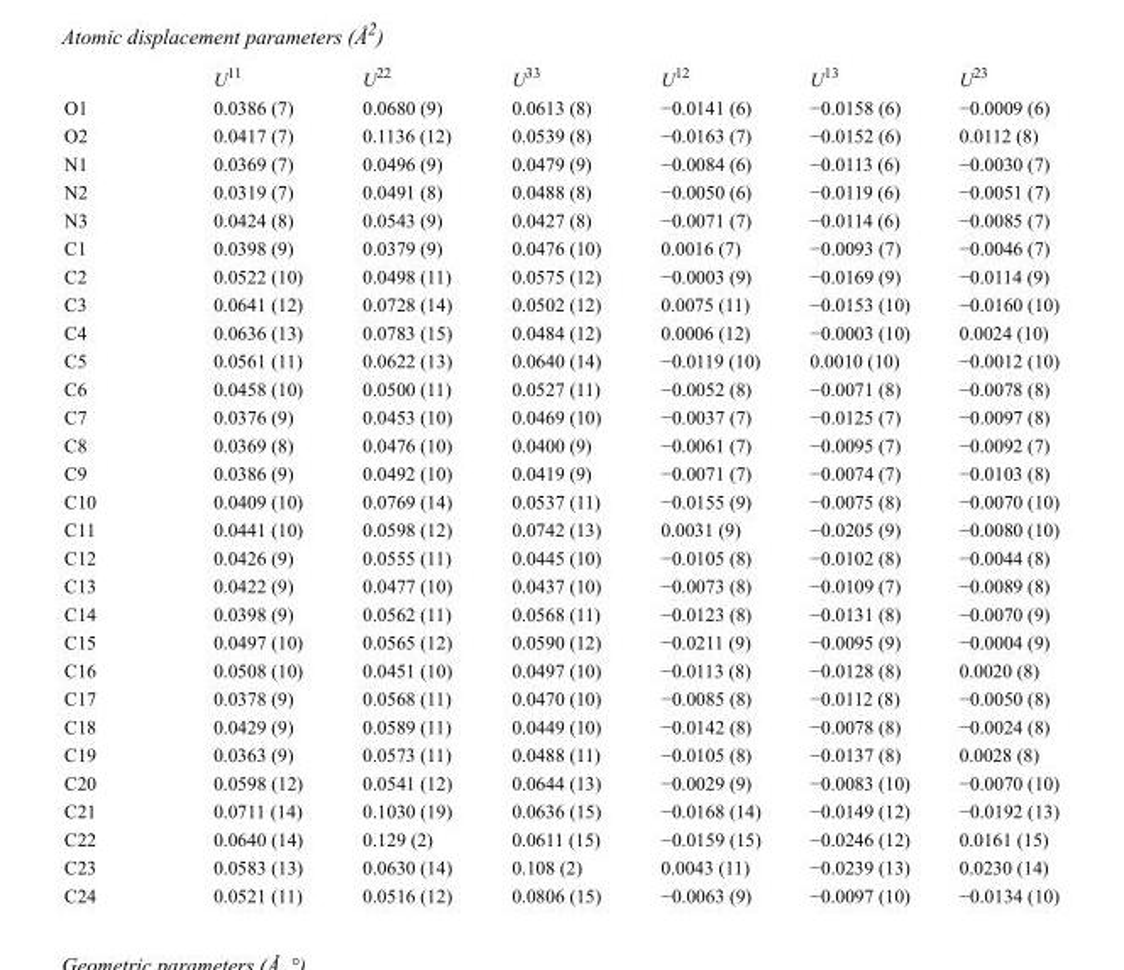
<table><thead><tr><td></td><td>U<sup>11</sup></td><td>U<sup>22</sup></td><td>U<sup>33</sup></td><td>U<sup>12</sup></td><td>U<sup>13</sup></td><td>U<sup>23</sup></td></tr></thead><tbody><tr><td>O1</td><td>0.0386 (7)</td><td>0.0680 (9)</td><td>0.0613 (8)</td><td>−0.0141 (6)</td><td>−0.0158 (6)</td><td>−0.0009 (6)</td></tr><tr><td>O2</td><td>0.0417 (7)</td><td>0.1136 (12)</td><td>0.0539 (8)</td><td>−0.0163 (7)</td><td>−0.0152 (6)</td><td>0.0112 (8)</td></tr><tr><td>N1</td><td>0.0369 (7)</td><td>0.0496 (9)</td><td>0.0479 (9)</td><td>−0.0084 (6)</td><td>−0.0113 (6)</td><td>−0.0030 (7)</td></tr><tr><td>N2</td><td>0.0319 (7)</td><td>0.0491 (8)</td><td>0.0488 (8)</td><td>−0.0050 (6)</td><td>−0.0119 (6)</td><td>−0.0051 (7)</td></tr><tr><td>N3</td><td>0.0424 (8)</td><td>0.0543 (9)</td><td>0.0427 (8)</td><td>−0.0071 (7)</td><td>−0.0114 (6)</td><td>−0.0085 (7)</td></tr><tr><td>C1</td><td>0.0398 (9)</td><td>0.0379 (9)</td><td>0.0476 (10)</td><td>0.0016 (7)</td><td>−0.0093 (7)</td><td>−0.0046 (7)</td></tr><tr><td>C2</td><td>0.0522 (10)</td><td>0.0498 (11)</td><td>0.0575 (12)</td><td>−0.0003 (9)</td><td>−0.0169 (9)</td><td>−0.0114 (9)</td></tr><tr><td>C3</td><td>0.0641 (12)</td><td>0.0728 (14)</td><td>0.0502 (12)</td><td>0.0075 (11)</td><td>−0.0153 (10)</td><td>−0.0160 (10)</td></tr><tr><td>C4</td><td>0.0636 (13)</td><td>0.0783 (15)</td><td>0.0484 (12)</td><td>0.0006 (12)</td><td>−0.0003 (10)</td><td>0.0024 (10)</td></tr><tr><td>C5</td><td>0.0561 (11)</td><td>0.0622 (13)</td><td>0.0640 (14)</td><td>−0.0119 (10)</td><td>0.0010 (10)</td><td>−0.0012 (10)</td></tr><tr><td>C6</td><td>0.0458 (10)</td><td>0.0500 (11)</td><td>0.0527 (11)</td><td>−0.0052 (8)</td><td>−0.0071 (8)</td><td>−0.0078 (8)</td></tr><tr><td>C7</td><td>0.0376 (9)</td><td>0.0453 (10)</td><td>0.0469 (10)</td><td>−0.0037 (7)</td><td>−0.0125 (7)</td><td>−0.0097 (8)</td></tr><tr><td>C8</td><td>0.0369 (8)</td><td>0.0476 (10)</td><td>0.0400 (9)</td><td>−0.0061 (7)</td><td>−0.0095 (7)</td><td>−0.0092 (7)</td></tr><tr><td>C9</td><td>0.0386 (9)</td><td>0.0492 (10)</td><td>0.0419 (9)</td><td>−0.0071 (7)</td><td>−0.0074 (7)</td><td>−0.0103 (8)</td></tr><tr><td>C10</td><td>0.0409 (10)</td><td>0.0769 (14)</td><td>0.0537 (11)</td><td>−0.0155 (9)</td><td>−0.0075 (8)</td><td>−0.0070 (10)</td></tr><tr><td>C11</td><td>0.0441 (10)</td><td>0.0598 (12)</td><td>0.0742 (13)</td><td>0.0031 (9)</td><td>−0.0205 (9)</td><td>−0.0080 (10)</td></tr><tr><td>C12</td><td>0.0426 (9)</td><td>0.0555 (11)</td><td>0.0445 (10)</td><td>−0.0105 (8)</td><td>−0.0102 (8)</td><td>−0.0044 (8)</td></tr><tr><td>C13</td><td>0.0422 (9)</td><td>0.0477 (10)</td><td>0.0437 (10)</td><td>−0.0073 (8)</td><td>−0.0109 (7)</td><td>−0.0089 (8)</td></tr><tr><td>C14</td><td>0.0398 (9)</td><td>0.0562 (11)</td><td>0.0568 (11)</td><td>−0.0123 (8)</td><td>−0.0131 (8)</td><td>−0.0070 (9)</td></tr><tr><td>C15</td><td>0.0497 (10)</td><td>0.0565 (12)</td><td>0.0590 (12)</td><td>−0.0211 (9)</td><td>−0.0095 (9)</td><td>−0.0004 (9)</td></tr><tr><td>C16</td><td>0.0508 (10)</td><td>0.0451 (10)</td><td>0.0497 (10)</td><td>−0.0113 (8)</td><td>−0.0128 (8)</td><td>0.0020 (8)</td></tr><tr><td>C17</td><td>0.0378 (9)</td><td>0.0568 (11)</td><td>0.0470 (10)</td><td>−0.0085 (8)</td><td>−0.0112 (8)</td><td>−0.0050 (8)</td></tr><tr><td>C18</td><td>0.0429 (9)</td><td>0.0589 (11)</td><td>0.0449 (10)</td><td>−0.0142 (8)</td><td>−0.0078 (8)</td><td>−0.0024 (8)</td></tr><tr><td>C19</td><td>0.0363 (9)</td><td>0.0573 (11)</td><td>0.0488 (11)</td><td>−0.0105 (8)</td><td>−0.0137 (8)</td><td>0.0028 (8)</td></tr><tr><td>C20</td><td>0.0598 (12)</td><td>0.0541 (12)</td><td>0.0644 (13)</td><td>−0.0029 (9)</td><td>−0.0083 (10)</td><td>−0.0070 (10)</td></tr><tr><td>C21</td><td>0.0711 (14)</td><td>0.1030 (19)</td><td>0.0636 (15)</td><td>−0.0168 (14)</td><td>−0.0149 (12)</td><td>−0.0192 (13)</td></tr><tr><td>C22</td><td>0.0640 (14)</td><td>0.129 (2)</td><td>0.0611 (15)</td><td>−0.0159 (15)</td><td>−0.0246 (12)</td><td>0.0161 (15)</td></tr><tr><td>C23</td><td>0.0583 (13)</td><td>0.0630 (14)</td><td>0.108 (2)</td><td>0.0043 (11)</td><td>−0.0239 (13)</td><td>0.0230 (14)</td></tr><tr><td>C24</td><td>0.0521 (11)</td><td>0.0516 (12)</td><td>0.0806 (15)</td><td>−0.0063 (9)</td><td>−0.0097 (10)</td><td>−0.0134 (10)</td></tr></tbody></table>